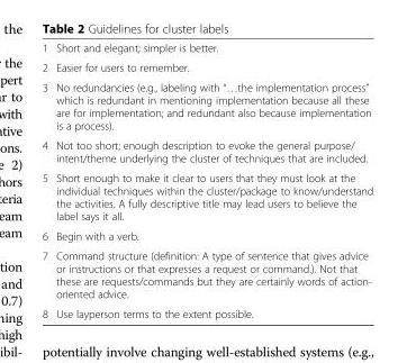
<table><tbody><tr><td>1</td><td>Short and elegant; simpler is better.</td></tr><tr><td>2</td><td>Easier for users to remember.</td></tr><tr><td>3</td><td>No redundancies (e.g., labeling with “…the implementation process” which is redundant in mentioning implementation because all these are for implementation; and redundant also because implementation is a process).</td></tr><tr><td>4</td><td>Not too short; enough description to evoke the general purpose/ intent/theme underlying the cluster of techniques that are included.</td></tr><tr><td>5</td><td>Short enough to make it clear to users that they must look at the individual techniques within the cluster/package to know/understand the activities. A fully descriptive title may lead users to believe the label says it all.</td></tr><tr><td>6</td><td>Begin with a verb.</td></tr><tr><td>7</td><td>Command structure (definition: A type of sentence that gives advice or instructions or that expresses a request or command.). Not that these are requests/commands but they are certainly words of action- oriented advice.</td></tr><tr><td>8</td><td>Use layperson terms to the extent possible.</td></tr></tbody></table>